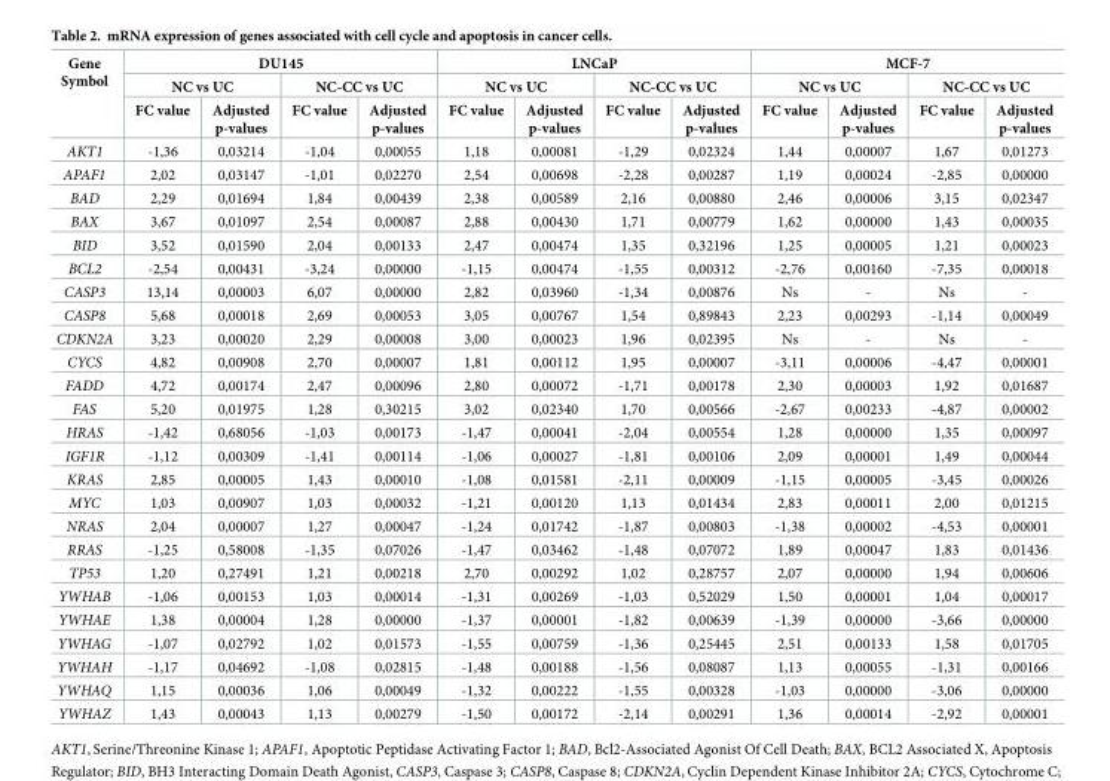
<table><thead><tr><td rowspan="3">Gene Symbol</td><td colspan="4">DU145</td><td colspan="4">LNCaP</td><td colspan="4">MCF-7</td></tr><tr><td colspan="2">NC vs UC</td><td colspan="2">NC-CC vs UC</td><td colspan="2">NC vs UC</td><td colspan="2">NC-CC vs UC</td><td colspan="2">NC vs UC</td><td colspan="2">NC-CC vs UC</td></tr><tr><td>FC value</td><td>Adjusted p-values</td><td>FC value</td><td>Adjusted p-values</td><td>FC value</td><td>Adjusted p-values</td><td>FC value</td><td>Adjusted p-values</td><td>FC value</td><td>Adjusted p-values</td><td>FC value</td><td>Adjusted p-values</td></tr></thead><tbody><tr><td>AKT1</td><td>-1,36</td><td>0,03214</td><td>-1,04</td><td>0,00055</td><td>1,18</td><td>0,00081</td><td>-1,29</td><td>0,02324</td><td>1,44</td><td>0,00007</td><td>1,67</td><td>0,01273</td></tr><tr><td>APAF1</td><td>2,02</td><td>0,03147</td><td>-1,01</td><td>0,02270</td><td>2,54</td><td>0,00698</td><td>-2,28</td><td>0,00287</td><td>1,19</td><td>0,00024</td><td>-2,85</td><td>0,00000</td></tr><tr><td>BAD</td><td>2,29</td><td>0,01694</td><td>1,84</td><td>0,00439</td><td>2,38</td><td>0,00589</td><td>2,16</td><td>0,00880</td><td>2,46</td><td>0,00006</td><td>3,15</td><td>0,02347</td></tr><tr><td>BAX</td><td>3,67</td><td>0,01097</td><td>2,54</td><td>0,00087</td><td>2,88</td><td>0,00430</td><td>1,71</td><td>0,00779</td><td>1,62</td><td>0,00000</td><td>1,43</td><td>0,00035</td></tr><tr><td>BID</td><td>3,52</td><td>0,01590</td><td>2,04</td><td>0,00133</td><td>2,47</td><td>0,00474</td><td>1,35</td><td>0,32196</td><td>1,25</td><td>0,00005</td><td>1,21</td><td>0,00023</td></tr><tr><td>BCL2</td><td>-2,54</td><td>0,00431</td><td>-3,24</td><td>0,00000</td><td>-1,15</td><td>0,00474</td><td>-1,55</td><td>0,00312</td><td>-2,76</td><td>0,00160</td><td>-7,35</td><td>0,00018</td></tr><tr><td>CASP3</td><td>13,14</td><td>0,00003</td><td>6,07</td><td>0,00000</td><td>2,82</td><td>0,03960</td><td>-1,34</td><td>0,00876</td><td>Ns</td><td>-</td><td>Ns</td><td>-</td></tr><tr><td>CASP8</td><td>5,68</td><td>0,00018</td><td>2,69</td><td>0,00053</td><td>3,05</td><td>0,00767</td><td>1,54</td><td>0,89843</td><td>2,23</td><td>0,00293</td><td>-1,14</td><td>0,00049</td></tr><tr><td>CDKN2A</td><td>3,23</td><td>0,00020</td><td>2,29</td><td>0,00008</td><td>3,00</td><td>0,00023</td><td>1,96</td><td>0,02395</td><td>Ns</td><td>-</td><td>Ns</td><td>-</td></tr><tr><td>CYCS</td><td>4,82</td><td>0,00908</td><td>2,70</td><td>0,00007</td><td>1,81</td><td>0,00112</td><td>1,95</td><td>0,00007</td><td>-3,11</td><td>0,00006</td><td>-4,47</td><td>0,00001</td></tr><tr><td>FADD</td><td>4,72</td><td>0,00174</td><td>2,47</td><td>0,00096</td><td>2,80</td><td>0,00072</td><td>-1,71</td><td>0,00178</td><td>2,30</td><td>0,00003</td><td>1,92</td><td>0,01687</td></tr><tr><td>FAS</td><td>5,20</td><td>0,01975</td><td>1,28</td><td>0,30215</td><td>3,02</td><td>0,02340</td><td>1,70</td><td>0,00566</td><td>-2,67</td><td>0,00233</td><td>-4,87</td><td>0,00002</td></tr><tr><td>HRAS</td><td>-1,42</td><td>0,68056</td><td>-1,03</td><td>0,00173</td><td>-1,47</td><td>0,00041</td><td>-2,04</td><td>0,00554</td><td>1,28</td><td>0,00000</td><td>1,35</td><td>0,00097</td></tr><tr><td>IGF1R</td><td>-1,12</td><td>0,00309</td><td>-1,41</td><td>0,00114</td><td>-1,06</td><td>0,00027</td><td>-1,81</td><td>0,00106</td><td>2,09</td><td>0,00001</td><td>1,49</td><td>0,00044</td></tr><tr><td>KRAS</td><td>2,85</td><td>0,00005</td><td>1,43</td><td>0,00010</td><td>-1,08</td><td>0,01581</td><td>-2,11</td><td>0,00009</td><td>-1,15</td><td>0,00005</td><td>-3,45</td><td>0,00026</td></tr><tr><td>MYC</td><td>1,03</td><td>0,00907</td><td>1,03</td><td>0,00032</td><td>-1,21</td><td>0,00120</td><td>1,13</td><td>0,01434</td><td>2,83</td><td>0,00011</td><td>2,00</td><td>0,01215</td></tr><tr><td>NRAS</td><td>2,04</td><td>0,00007</td><td>1,27</td><td>0,00047</td><td>-1,24</td><td>0,01742</td><td>-1,87</td><td>0,00803</td><td>-1,38</td><td>0,00002</td><td>-4,53</td><td>0,00001</td></tr><tr><td>RRAS</td><td>-1,25</td><td>0,58008</td><td>-1,35</td><td>0,07026</td><td>-1,47</td><td>0,03462</td><td>-1,48</td><td>0,07072</td><td>1,89</td><td>0,00047</td><td>1,83</td><td>0,01436</td></tr><tr><td>TP53</td><td>1,20</td><td>0,27491</td><td>1,21</td><td>0,00218</td><td>2,70</td><td>0,00292</td><td>1,02</td><td>0,28757</td><td>2,07</td><td>0,00000</td><td>1,94</td><td>0,00606</td></tr><tr><td>YWHAB</td><td>-1,06</td><td>0,00153</td><td>1,03</td><td>0,00014</td><td>-1,31</td><td>0,00269</td><td>-1,03</td><td>0,52029</td><td>1,50</td><td>0,00001</td><td>1,04</td><td>0,00017</td></tr><tr><td>YWHAE</td><td>1,38</td><td>0,00004</td><td>1,28</td><td>0,00000</td><td>-1,37</td><td>0,00001</td><td>-1,82</td><td>0,00639</td><td>-1,39</td><td>0,00000</td><td>-3,66</td><td>0,00000</td></tr><tr><td>YWHAG</td><td>-1,07</td><td>0,02792</td><td>1,02</td><td>0,01573</td><td>-1,55</td><td>0,00759</td><td>-1,36</td><td>0,25445</td><td>2,51</td><td>0,00133</td><td>1,58</td><td>0,01705</td></tr><tr><td>YWHAH</td><td>-1,17</td><td>0,04692</td><td>-1,08</td><td>0,02815</td><td>-1,48</td><td>0,00188</td><td>-1,56</td><td>0,08087</td><td>1,13</td><td>0,00055</td><td>-1,31</td><td>0,00166</td></tr><tr><td>YWHAQ</td><td>1,15</td><td>0,00036</td><td>1,06</td><td>0,00049</td><td>-1,32</td><td>0,00222</td><td>-1,55</td><td>0,00328</td><td>-1,03</td><td>0,00000</td><td>-3,06</td><td>0,00000</td></tr><tr><td>YWHAZ</td><td>1,43</td><td>0,00043</td><td>1,13</td><td>0,00279</td><td>-1,50</td><td>0,00172</td><td>-2,14</td><td>0,00291</td><td>1,36</td><td>0,00014</td><td>-2,92</td><td>0,00001</td></tr></tbody></table>